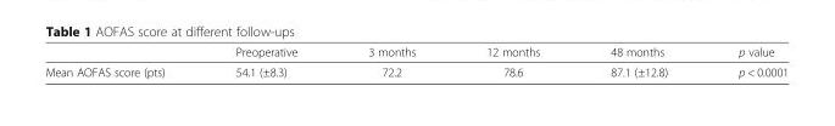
<table><thead><tr><td></td><td>Preoperative</td><td>3 months</td><td>12 months</td><td>48 months</td><td>p value</td></tr></thead><tbody><tr><td>Mean AOFAS score (pts)</td><td>54.1 (±8.3)</td><td>72.2</td><td>78.6</td><td>87.1 (±12.8)</td><td>p &lt; 0.0001</td></tr></tbody></table>